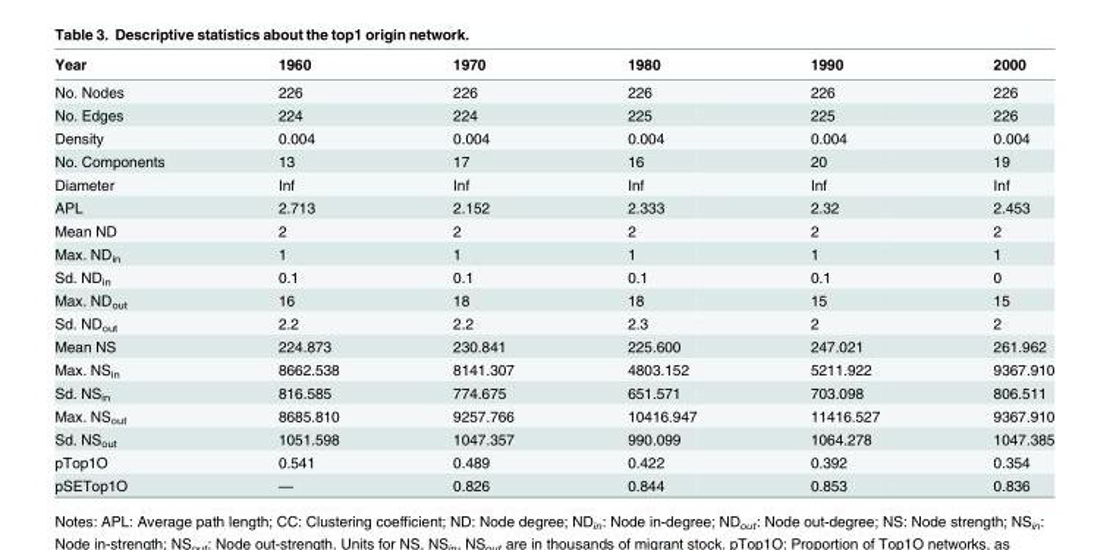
<table><thead><tr><td>Year</td><td>1960</td><td>1970</td><td>1980</td><td>1990</td><td>2000</td></tr></thead><tbody><tr><td>No. Nodes</td><td>226</td><td>226</td><td>226</td><td>226</td><td>226</td></tr><tr><td>No. Edges</td><td>224</td><td>224</td><td>225</td><td>225</td><td>226</td></tr><tr><td>Density</td><td>0.004</td><td>0.004</td><td>0.004</td><td>0.004</td><td>0.004</td></tr><tr><td>No. Components</td><td>13</td><td>17</td><td>16</td><td>20</td><td>19</td></tr><tr><td>Diameter</td><td>Inf</td><td>Inf</td><td>Inf</td><td>Inf</td><td>Inf</td></tr><tr><td>APL</td><td>2.713</td><td>2.152</td><td>2.333</td><td>2.32</td><td>2.453</td></tr><tr><td>Mean ND</td><td>2</td><td>2</td><td>2</td><td>2</td><td>2</td></tr><tr><td>Max. ND<sub>in</sub></td><td>1</td><td>1</td><td>1</td><td>1</td><td>1</td></tr><tr><td>Sd. ND<sub>in</sub></td><td>0.1</td><td>0.1</td><td>0.1</td><td>0.1</td><td>0</td></tr><tr><td>Max. ND<sub>out</sub></td><td>16</td><td>18</td><td>18</td><td>15</td><td>15</td></tr><tr><td>Sd. ND<sub>out</sub></td><td>2.2</td><td>2.2</td><td>2.3</td><td>2</td><td>2</td></tr><tr><td>Mean NS</td><td>224.873</td><td>230.841</td><td>225.600</td><td>247.021</td><td>261.962</td></tr><tr><td>Max. NS<sub>in</sub></td><td>8662.538</td><td>8141.307</td><td>4803.152</td><td>5211.922</td><td>9367.910</td></tr><tr><td>Sd. NS<sub>in</sub></td><td>816.585</td><td>774.675</td><td>651.571</td><td>703.098</td><td>806.511</td></tr><tr><td>Max. NS<sub>out</sub></td><td>8685.810</td><td>9257.766</td><td>10416.947</td><td>11416.527</td><td>9367.910</td></tr><tr><td>Sd. NS<sub>out</sub></td><td>1051.598</td><td>1047.357</td><td>990.099</td><td>1064.278</td><td>1047.385</td></tr><tr><td>pTop1O</td><td>0.541</td><td>0.489</td><td>0.422</td><td>0.392</td><td>0.354</td></tr><tr><td>pSETop1O</td><td>—</td><td>0.826</td><td>0.844</td><td>0.853</td><td>0.836</td></tr></tbody></table>